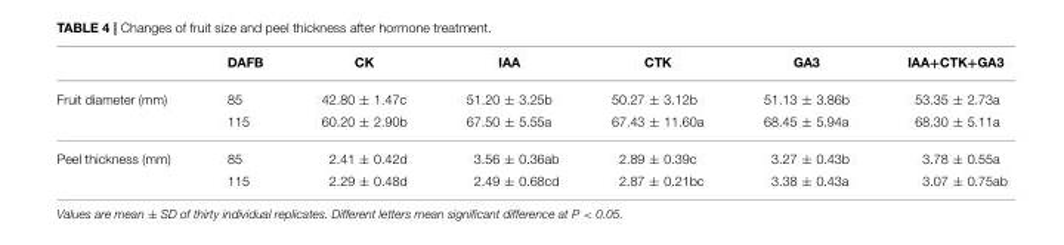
<table><thead><tr><td></td><td>DAFB</td><td>CK</td><td>IAA</td><td>CTK</td><td>GA3</td><td>IAA+CTK+GA3</td></tr></thead><tbody><tr><td rowspan="2">Fruit diameter (mm)</td><td>85</td><td>42.80 ± 1.47c</td><td>51.20 ± 3.25b</td><td>50.27 ± 3.12b</td><td>51.13 ± 3.86b</td><td>53.35 ± 2.73a</td></tr><tr><td>115</td><td>60.20 ± 2.90b</td><td>67.50 ± 5.55a</td><td>67.43 ± 11.60a</td><td>68.45 ± 5.94a</td><td>68.30 ± 5.11a</td></tr><tr><td rowspan="2">Peel thickness (mm)</td><td>85</td><td>2.41 ± 0.42d</td><td>3.56 ± 0.36ab</td><td>2.89 ± 0.39c</td><td>3.27 ± 0.43b</td><td>3.78 ± 0.55a</td></tr><tr><td>115</td><td>2.29 ± 0.48d</td><td>2.49 ± 0.68cd</td><td>2.87 ± 0.21bc</td><td>3.38 ± 0.43a</td><td>3.07 ± 0.75ab</td></tr></tbody></table>